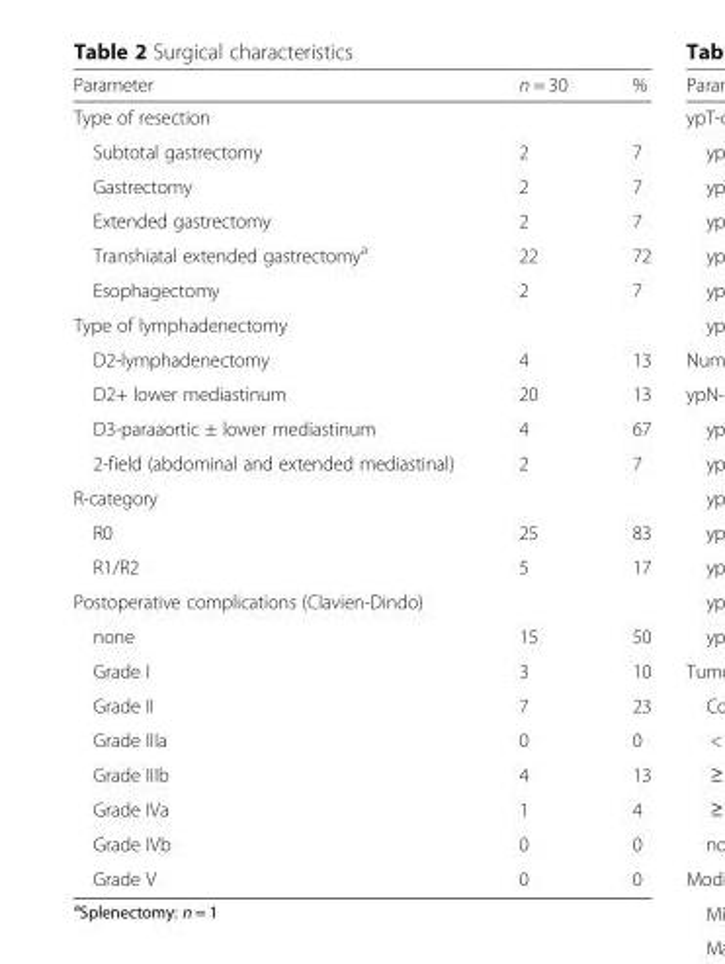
<table><thead><tr><td>Parameter</td><td>n = 30</td><td>%</td></tr></thead><tbody><tr><td colspan="3">Type of resection</td></tr><tr><td>Subtotal gastrectomy</td><td>2</td><td>7</td></tr><tr><td>Gastrectomy</td><td>2</td><td>7</td></tr><tr><td>Extended gastrectomy</td><td>2</td><td>7</td></tr><tr><td>Transhiatal extended gastrectomy<sup>a</sup></td><td>22</td><td>72</td></tr><tr><td>Esophagectomy</td><td>2</td><td>7</td></tr><tr><td colspan="3">Type of lymphadenectomy</td></tr><tr><td>D2-lymphadenectomy</td><td>4</td><td>13</td></tr><tr><td>D2+ lower mediastinum</td><td>20</td><td>13</td></tr><tr><td>D3-paraaortic ± lower mediastinum</td><td>4</td><td>67</td></tr><tr><td>2-field (abdominal and extended mediastinal)</td><td>2</td><td>7</td></tr><tr><td colspan="3">R-category</td></tr><tr><td>R0</td><td>25</td><td>83</td></tr><tr><td>R1/R2</td><td>5</td><td>17</td></tr><tr><td colspan="3">Postoperative complications (Clavien-Dindo)</td></tr><tr><td>none</td><td>15</td><td>50</td></tr><tr><td>Grade I</td><td>3</td><td>10</td></tr><tr><td>Grade II</td><td>7</td><td>23</td></tr><tr><td>Grade IIIa</td><td>0</td><td>0</td></tr><tr><td>Grade IIIb</td><td>4</td><td>13</td></tr><tr><td>Grade IVa</td><td>1</td><td>4</td></tr><tr><td>Grade IVb</td><td>0</td><td>0</td></tr><tr><td>Grade V</td><td>0</td><td>0</td></tr></tbody></table>